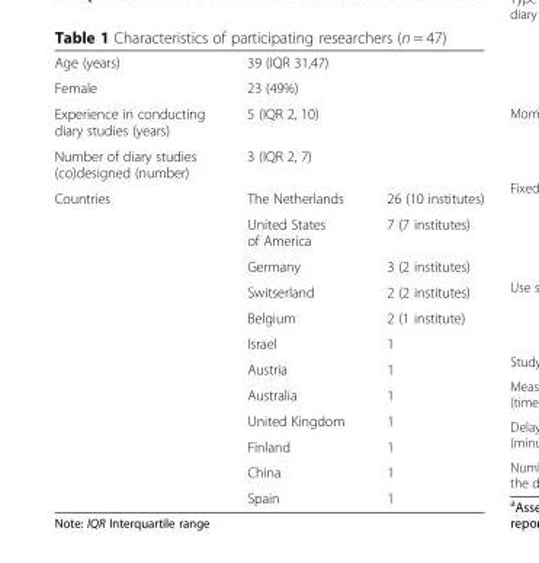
<table><tbody><tr><td>Age (years)</td><td>39 (IQR 31,47)</td><td></td></tr><tr><td>Female</td><td>23 (49%)</td><td></td></tr><tr><td>Experience in conducting diary studies (years)</td><td>5 (IQR 2, 10)</td><td></td></tr><tr><td>Number of diary studies (co)designed (number)</td><td>3 (IQR 2, 7)</td><td></td></tr><tr><td rowspan="12">Countries</td><td>The Netherlands</td><td>26 (10 institutes)</td></tr><tr><td>United States of America</td><td>7 (7 institutes)</td></tr><tr><td>Germany</td><td>3 (2 institutes)</td></tr><tr><td>Switserland</td><td>2 (2 institutes)</td></tr><tr><td>Belgium</td><td>2 (1 institute)</td></tr><tr><td>Israel</td><td>1</td></tr><tr><td>Austria</td><td>1</td></tr><tr><td>Australia</td><td>1</td></tr><tr><td>United Kingdom</td><td>1</td></tr><tr><td>Finland</td><td>1</td></tr><tr><td>China</td><td>1</td></tr><tr><td>Spain</td><td>1</td></tr></tbody></table>